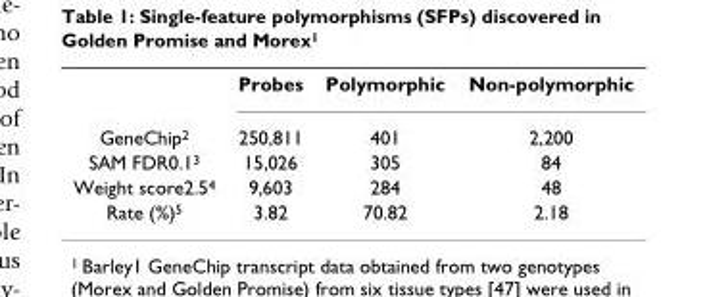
<table><thead><tr><td></td><td>Probes</td><td>Polymorphic</td><td>Non-polymorphic</td></tr></thead><tbody><tr><td>GeneChip<sup>2</sup></td><td>250,811</td><td>401</td><td>2,200</td></tr><tr><td>SAM FDR0.1<sup>3</sup></td><td>15,026</td><td>305</td><td>84</td></tr><tr><td>Weight score2.5<sup>4</sup></td><td>9,603</td><td>284</td><td>48</td></tr><tr><td>Rate (%)<sup>5</sup></td><td>3.82</td><td>70.82</td><td>2.18</td></tr></tbody></table>